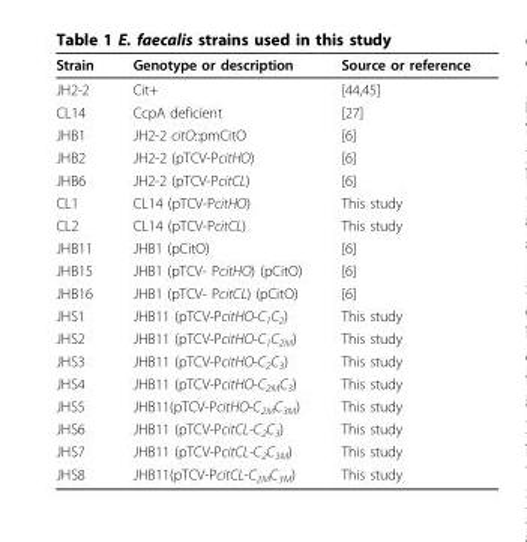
<table><thead><tr><td>Strain</td><td>Genotype or description</td><td>Source or reference</td></tr></thead><tbody><tr><td>JH2-2</td><td>Cit+</td><td>[44,45]</td></tr><tr><td>CL14</td><td>CcpA deficient</td><td>[27]</td></tr><tr><td>JHB1</td><td>JH2-2 citO::pmCitO</td><td>[6]</td></tr><tr><td>JHB2</td><td>JH2-2 (pTCV-PcitHO)</td><td>[6]</td></tr><tr><td>JHB6</td><td>JH2-2 (pTCV-PcitCL)</td><td>[6]</td></tr><tr><td>CL1</td><td>CL14 (pTCV-PcitHO)</td><td>This study</td></tr><tr><td>CL2</td><td>CL14 (pTCV-PcitCL)</td><td>This study</td></tr><tr><td>JHB11</td><td>JHB1 (pCitO)</td><td>[6]</td></tr><tr><td>JHB15</td><td>JHB1 (pTCV- PcitHO) (pCitO)</td><td>[6]</td></tr><tr><td>JHB16</td><td>JHB1 (pTCV- PcitCL) (pCitO)</td><td>[6]</td></tr><tr><td>JHS1</td><td>JHB11 (pTCV-PcitHO-C<sub>1</sub>C<sub>2</sub>)</td><td>This study</td></tr><tr><td>JHS2</td><td>JHB11 (pTCV-PcitHO-C<sub>1</sub>C<sub>2M</sub>)</td><td>This study</td></tr><tr><td>JHS3</td><td>JHB11 (pTCV-PcitHO-C<sub>2</sub>C<sub>3</sub>)</td><td>This study</td></tr><tr><td>JHS4</td><td>JHB11 (pTCV-PcitHO-C<sub>2M</sub>C<sub>3</sub>)</td><td>This study</td></tr><tr><td>JHS5</td><td>JHB11(pTCV-PcitHO-C<sub>2M</sub>C<sub>3M</sub>)</td><td>This study</td></tr><tr><td>JHS6</td><td>JHB11 (pTCV-PcitCL-C<sub>2</sub>C<sub>3</sub>)</td><td>This study</td></tr><tr><td>JHS7</td><td>JHB11 (pTCV-PcitCL-C<sub>2</sub>C<sub>3M</sub>)</td><td>This study</td></tr><tr><td>JHS8</td><td>JHB11(pTCV-PcitCL-C<sub>2M</sub>C<sub>3M</sub>)</td><td>This study</td></tr></tbody></table>